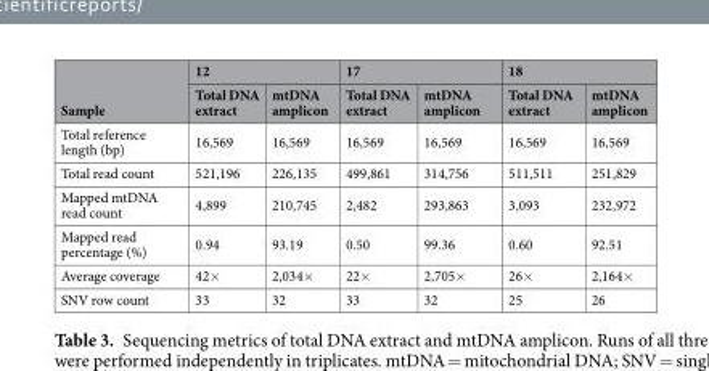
<table><thead><tr><td rowspan="2">Sample</td><td colspan="2">12</td><td colspan="2">17</td><td colspan="2">18</td></tr><tr><td>Total DNA extract</td><td>mtDNA amplicon</td><td>Total DNA extract</td><td>mtDNA amplicon</td><td>Total DNA extract</td><td>mtDNA amplicon</td></tr></thead><tbody><tr><td>Total reference length (bp)</td><td>16,569</td><td>16,569</td><td>16,569</td><td>16,569</td><td>16,569</td><td>16,569</td></tr><tr><td>Total read count</td><td>521,196</td><td>226,135</td><td>499,861</td><td>314,756</td><td>511,511</td><td>251,829</td></tr><tr><td>Mapped mtDNA read count</td><td>4,899</td><td>210,745</td><td>2,482</td><td>293,863</td><td>3,093</td><td>232,972</td></tr><tr><td>Mapped read percentage (%)</td><td>0.94</td><td>93.19</td><td>0.50</td><td>99.36</td><td>0.60</td><td>92.51</td></tr><tr><td>Average coverage</td><td>42×</td><td>2,034×</td><td>22×</td><td>2,705×</td><td>26×</td><td>2,164×</td></tr><tr><td>SNV row count</td><td>33</td><td>32</td><td>33</td><td>32</td><td>25</td><td>26</td></tr></tbody></table>